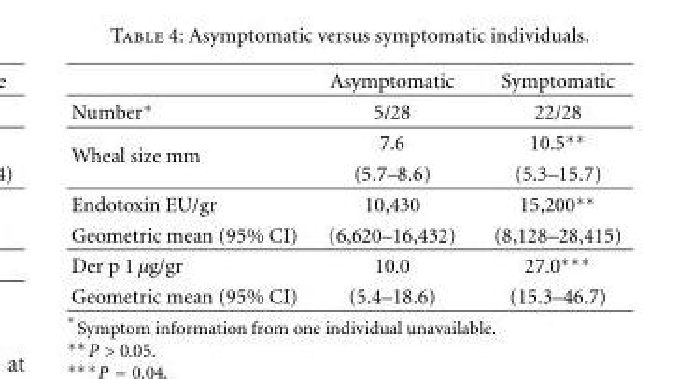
<table><thead><tr><td></td><td>Asymptomatic</td><td>Symptomatic</td></tr></thead><tbody><tr><td>Number∗</td><td>5/28</td><td>22/28</td></tr><tr><td rowspan="2">Wheal size mm</td><td>7.6</td><td>10.5∗∗</td></tr><tr><td>(5.7–8.6)</td><td>(5.3–15.7)</td></tr><tr><td>Endotoxin EU/gr</td><td>10,430</td><td>15,200∗∗</td></tr><tr><td>Geometric mean (95% CI)</td><td>(6,620–16,432)</td><td>(8,128–28,415)</td></tr><tr><td>Der p 1 µg/gr</td><td>10.0</td><td>27.0∗∗∗</td></tr><tr><td>Geometric mean (95% CI)</td><td>(5.4–18.6)</td><td>(15.3–46.7)</td></tr></tbody></table>